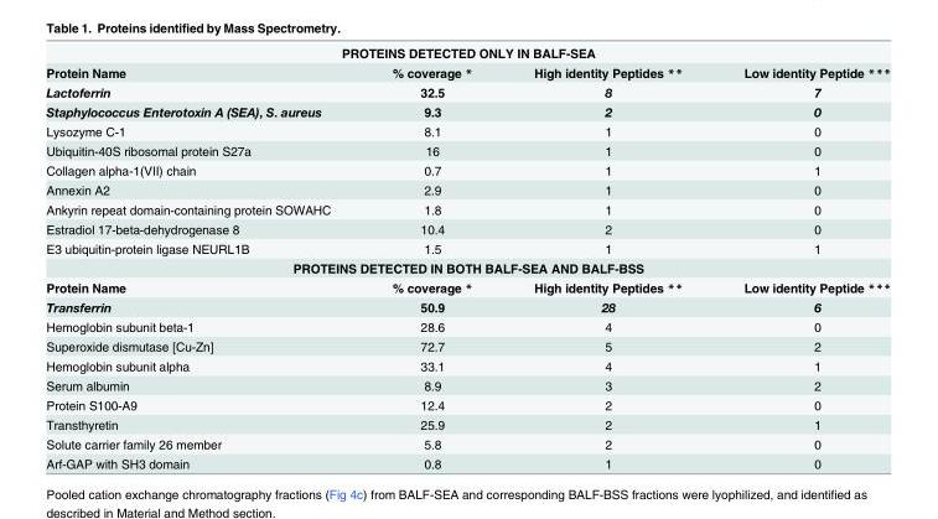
<table><tbody><tr><td colspan="4">PROTEINS DETECTED ONLY IN BALF-SEA</td></tr><tr><td>Protein Name</td><td>% coverage *</td><td>High identity Peptides **</td><td>Low identity Peptide ***</td></tr><tr><td>Lactoferrin</td><td>32.5</td><td>8</td><td>7</td></tr><tr><td>Staphylococcus Enterotoxin A (SEA), S. aureus</td><td>9.3</td><td>2</td><td>0</td></tr><tr><td>Lysozyme C-1</td><td>8.1</td><td>1</td><td>0</td></tr><tr><td>Ubiquitin-40S ribosomal protein S27a</td><td>16</td><td>1</td><td>0</td></tr><tr><td>Collagen alpha-1(VII) chain</td><td>0.7</td><td>1</td><td>1</td></tr><tr><td>Annexin A2</td><td>2.9</td><td>1</td><td>0</td></tr><tr><td>Ankyrin repeat domain-containing protein SOWAHC</td><td>1.8</td><td>1</td><td>0</td></tr><tr><td>Estradiol 17-beta-dehydrogenase 8</td><td>10.4</td><td>2</td><td>0</td></tr><tr><td>E3 ubiquitin-protein ligase NEURL1B</td><td>1.5</td><td>1</td><td>1</td></tr><tr><td colspan="4">PROTEINS DETECTED IN BOTH BALF-SEA AND BALF-BSS</td></tr><tr><td>Protein Name</td><td>% coverage *</td><td>High identity Peptides **</td><td>Low identity Peptide ***</td></tr><tr><td>Transferrin</td><td>50.9</td><td>28</td><td>6</td></tr><tr><td>Hemoglobin subunit beta-1</td><td>28.6</td><td>4</td><td>0</td></tr><tr><td>Superoxide dismutase [Cu-Zn]</td><td>72.7</td><td>5</td><td>2</td></tr><tr><td>Hemoglobin subunit alpha</td><td>33.1</td><td>4</td><td>1</td></tr><tr><td>Serum albumin</td><td>8.9</td><td>3</td><td>2</td></tr><tr><td>Protein S100-A9</td><td>12.4</td><td>2</td><td>0</td></tr><tr><td>Transthyretin</td><td>25.9</td><td>2</td><td>1</td></tr><tr><td>Solute carrier family 26 member</td><td>5.8</td><td>2</td><td>0</td></tr><tr><td>Arf-GAP with SH3 domain</td><td>0.8</td><td>1</td><td>0</td></tr></tbody></table>